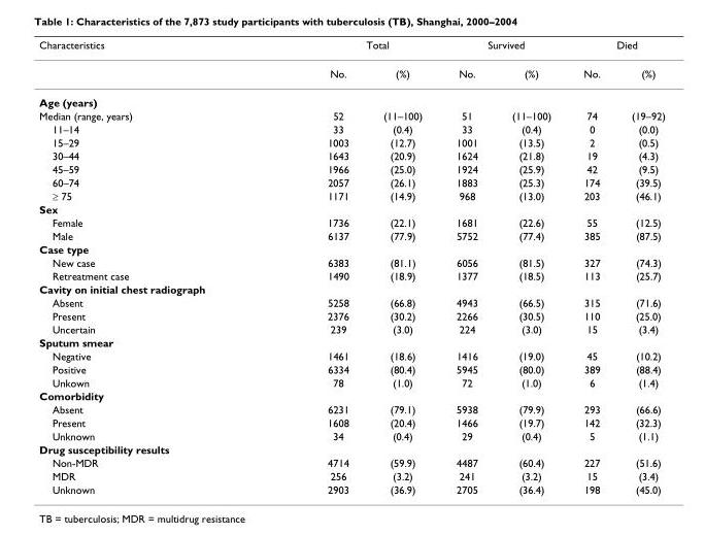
<table><thead><tr><td rowspan="2">Characteristics</td><td colspan="2">Total</td><td colspan="2">Survived</td><td colspan="2">Died</td></tr><tr><td>No.</td><td>(%)</td><td>No.</td><td>(%)</td><td>No.</td><td>(%)</td></tr></thead><tbody><tr><td colspan="7">Age (years)</td></tr><tr><td>Median (range, years)</td><td>52</td><td>(11–100)</td><td>51</td><td>(11–100)</td><td>74</td><td>(19–92)</td></tr><tr><td>11–14</td><td>33</td><td>(0.4)</td><td>33</td><td>(0.4)</td><td>0</td><td>(0.0)</td></tr><tr><td>15–29</td><td>1003</td><td>(12.7)</td><td>1001</td><td>(13.5)</td><td>2</td><td>(0.5)</td></tr><tr><td>30–44</td><td>1643</td><td>(20.9)</td><td>1624</td><td>(21.8)</td><td>19</td><td>(4.3)</td></tr><tr><td>45–59</td><td>1966</td><td>(25.0)</td><td>1924</td><td>(25.9)</td><td>42</td><td>(9.5)</td></tr><tr><td>60–74</td><td>2057</td><td>(26.1)</td><td>1883</td><td>(25.3)</td><td>174</td><td>(39.5)</td></tr><tr><td>≥ 75</td><td>1171</td><td>(14.9)</td><td>968</td><td>(13.0)</td><td>203</td><td>(46.1)</td></tr><tr><td colspan="7">Sex</td></tr><tr><td>Female</td><td>1736</td><td>(22.1)</td><td>1681</td><td>(22.6)</td><td>55</td><td>(12.5)</td></tr><tr><td>Male</td><td>6137</td><td>(77.9)</td><td>5752</td><td>(77.4)</td><td>385</td><td>(87.5)</td></tr><tr><td colspan="7">Case type</td></tr><tr><td>New case</td><td>6383</td><td>(81.1)</td><td>6056</td><td>(81.5)</td><td>327</td><td>(74.3)</td></tr><tr><td>Retreatment case</td><td>1490</td><td>(18.9)</td><td>1377</td><td>(18.5)</td><td>113</td><td>(25.7)</td></tr><tr><td colspan="7">Cavity on initial chest radiograph</td></tr><tr><td>Absent</td><td>5258</td><td>(66.8)</td><td>4943</td><td>(66.5)</td><td>315</td><td>(71.6)</td></tr><tr><td>Present</td><td>2376</td><td>(30.2)</td><td>2266</td><td>(30.5)</td><td>110</td><td>(25.0)</td></tr><tr><td>Uncertain</td><td>239</td><td>(3.0)</td><td>224</td><td>(3.0)</td><td>15</td><td>(3.4)</td></tr><tr><td colspan="7">Sputum smear</td></tr><tr><td>Negative</td><td>1461</td><td>(18.6)</td><td>1416</td><td>(19.0)</td><td>45</td><td>(10.2)</td></tr><tr><td>Positive</td><td>6334</td><td>(80.4)</td><td>5945</td><td>(80.0)</td><td>389</td><td>(88.4)</td></tr><tr><td>Unkown</td><td>78</td><td>(1.0)</td><td>72</td><td>(1.0)</td><td>6</td><td>(1.4)</td></tr><tr><td colspan="7">Comorbidity</td></tr><tr><td>Absent</td><td>6231</td><td>(79.1)</td><td>5938</td><td>(79.9)</td><td>293</td><td>(66.6)</td></tr><tr><td>Present</td><td>1608</td><td>(20.4)</td><td>1466</td><td>(19.7)</td><td>142</td><td>(32.3)</td></tr><tr><td>Unknown</td><td>34</td><td>(0.4)</td><td>29</td><td>(0.4)</td><td>5</td><td>(1.1)</td></tr><tr><td colspan="7">Drug susceptibility results</td></tr><tr><td>Non-MDR</td><td>4714</td><td>(59.9)</td><td>4487</td><td>(60.4)</td><td>227</td><td>(51.6)</td></tr><tr><td>MDR</td><td>256</td><td>(3.2)</td><td>241</td><td>(3.2)</td><td>15</td><td>(3.4)</td></tr><tr><td>Unknown</td><td>2903</td><td>(36.9)</td><td>2705</td><td>(36.4)</td><td>198</td><td>(45.0)</td></tr></tbody></table>